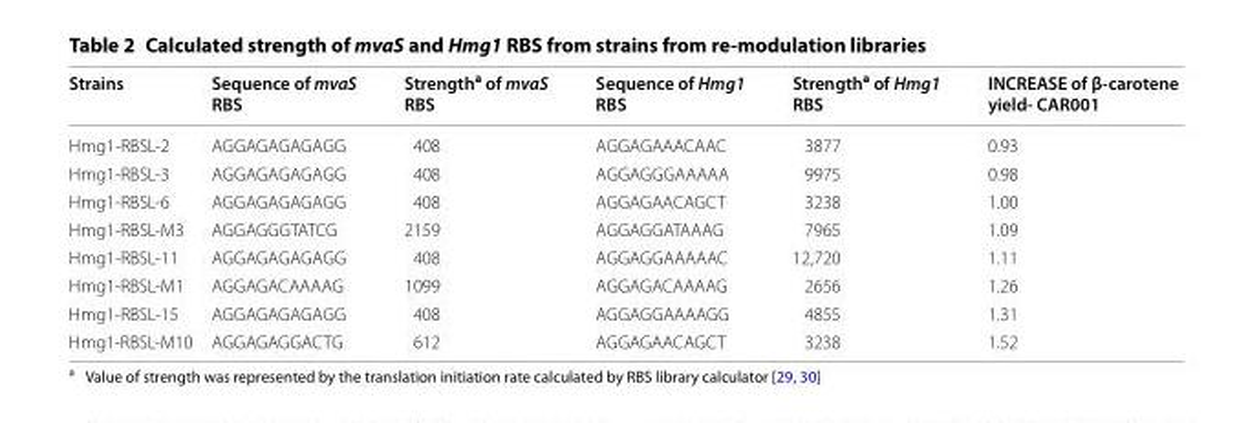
<table><thead><tr><td>Strains</td><td>Sequence of mvaS RBS</td><td>Strength<sup>a</sup> of mvaS RBS</td><td>Sequence of Hmg1 RBS</td><td>Strength<sup>a</sup> of Hmg1 RBS</td><td>INCREASE of β‑carotene yield‑ CAR001</td></tr></thead><tbody><tr><td>Hmg1-RBSL-2</td><td>AGGAGAGAGAGG</td><td>408</td><td>AGGAGAAACAAC</td><td>3877</td><td>0.93</td></tr><tr><td>Hmg1-RBSL-3</td><td>AGGAGAGAGAGG</td><td>408</td><td>AGGAGGGAAAAA</td><td>9975</td><td>0.98</td></tr><tr><td>Hmg1-RBSL-6</td><td>AGGAGAGAGAGG</td><td>408</td><td>AGGAGAACAGCT</td><td>3238</td><td>1.00</td></tr><tr><td>Hmg1-RBSL-M3</td><td>AGGAGGGTATCG</td><td>2159</td><td>AGGAGGATAAAG</td><td>7965</td><td>1.09</td></tr><tr><td>Hmg1-RBSL-11</td><td>AGGAGAGAGAGG</td><td>408</td><td>AGGAGGAAAAAC</td><td>12,720</td><td>1.11</td></tr><tr><td>Hmg1-RBSL-M1</td><td>AGGAGACAAAAG</td><td>1099</td><td>AGGAGACAAAAG</td><td>2656</td><td>1.26</td></tr><tr><td>Hmg1-RBSL-15</td><td>AGGAGAGAGAGG</td><td>408</td><td>AGGAGGAAAAGG</td><td>4855</td><td>1.31</td></tr><tr><td>Hmg1-RBSL-M10</td><td>AGGAGAGGACTG</td><td>612</td><td>AGGAGAACAGCT</td><td>3238</td><td>1.52</td></tr></tbody></table>